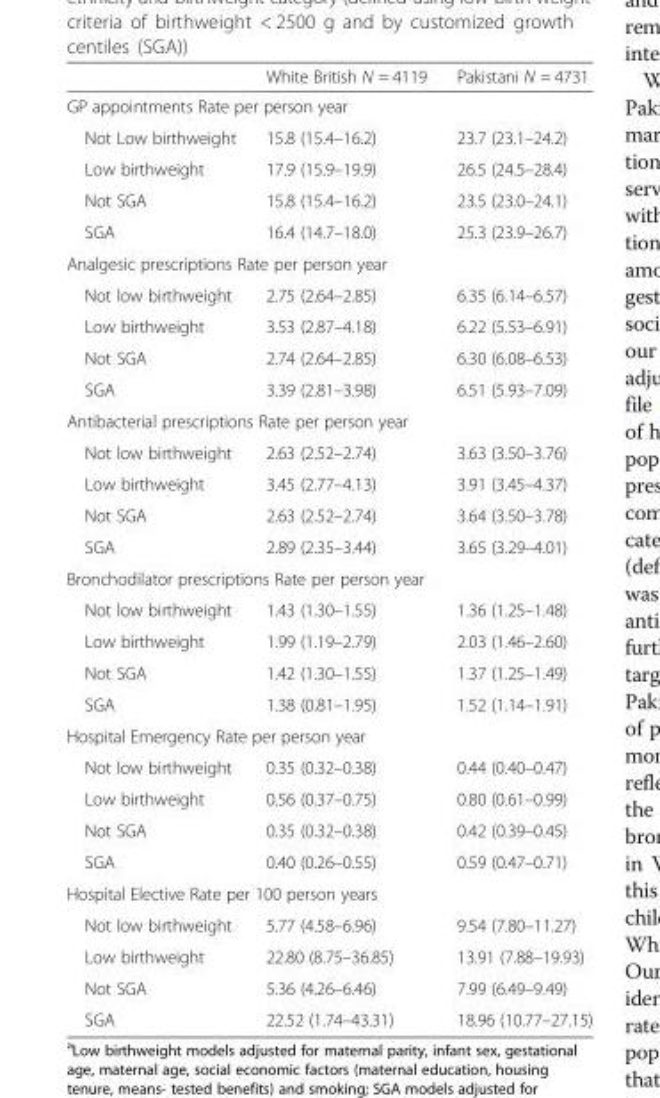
<table><thead><tr><td></td><td>White British N = 4119</td><td>Pakistani N = 4731</td></tr></thead><tbody><tr><td colspan="3">GP appointments Rate per person year</td></tr><tr><td>Not Low birthweight</td><td>15.8 (15.4–16.2)</td><td>23.7 (23.1–24.2)</td></tr><tr><td>Low birthweight</td><td>17.9 (15.9–19.9)</td><td>26.5 (24.5–28.4)</td></tr><tr><td>Not SGA</td><td>15.8 (15.4–16.2)</td><td>23.5 (23.0–24.1)</td></tr><tr><td>SGA</td><td>16.4 (14.7–18.0)</td><td>25.3 (23.9–26.7)</td></tr><tr><td colspan="3">Analgesic prescriptions Rate per person year</td></tr><tr><td>Not low birthweight</td><td>2.75 (2.64–2.85)</td><td>6.35 (6.14–6.57)</td></tr><tr><td>Low birthweight</td><td>3.53 (2.87–4.18)</td><td>6.22 (5.53–6.91)</td></tr><tr><td>Not SGA</td><td>2.74 (2.64–2.85)</td><td>6.30 (6.08–6.53)</td></tr><tr><td>SGA</td><td>3.39 (2.81–3.98)</td><td>6.51 (5.93–7.09)</td></tr><tr><td colspan="3">Antibacterial prescriptions Rate per person year</td></tr><tr><td>Not low birthweight</td><td>2.63 (2.52–2.74)</td><td>3.63 (3.50–3.76)</td></tr><tr><td>Low birthweight</td><td>3.45 (2.77–4.13)</td><td>3.91 (3.45–4.37)</td></tr><tr><td>Not SGA</td><td>2.63 (2.52–2.74)</td><td>3.64 (3.50–3.78)</td></tr><tr><td>SGA</td><td>2.89 (2.35–3.44)</td><td>3.65 (3.29–4.01)</td></tr><tr><td colspan="3">Bronchodilator prescriptions Rate per person year</td></tr><tr><td>Not low birthweight</td><td>1.43 (1.30–1.55)</td><td>1.36 (1.25–1.48)</td></tr><tr><td>Low birthweight</td><td>1.99 (1.19–2.79)</td><td>2.03 (1.46–2.60)</td></tr><tr><td>Not SGA</td><td>1.42 (1.30–1.55)</td><td>1.37 (1.25–1.49)</td></tr><tr><td>SGA</td><td>1.38 (0.81–1.95)</td><td>1.52 (1.14–1.91)</td></tr><tr><td colspan="3">Hospital Emergency Rate per person year</td></tr><tr><td>Not low birthweight</td><td>0.35 (0.32–0.38)</td><td>0.44 (0.40–0.47)</td></tr><tr><td>Low birthweight</td><td>0.56 (0.37–0.75)</td><td>0.80 (0.61–0.99)</td></tr><tr><td>Not SGA</td><td>0.35 (0.32–0.38)</td><td>0.42 (0.39–0.45)</td></tr><tr><td>SGA</td><td>0.40 (0.26–0.55)</td><td>0.59 (0.47–0.71)</td></tr><tr><td colspan="3">Hospital Elective Rate per 100 person years</td></tr><tr><td>Not low birthweight</td><td>5.77 (4.58–6.96)</td><td>9.54 (7.80–11.27)</td></tr><tr><td>Low birthweight</td><td>22.80 (8.75–36.85)</td><td>13.91 (7.88–19.93)</td></tr><tr><td>Not SGA</td><td>5.36 (4.26–6.46)</td><td>7.99 (6.49–9.49)</td></tr><tr><td>SGA</td><td>22.52 (1.74–43.31)</td><td>18.96 (10.77–27.15)</td></tr></tbody></table>